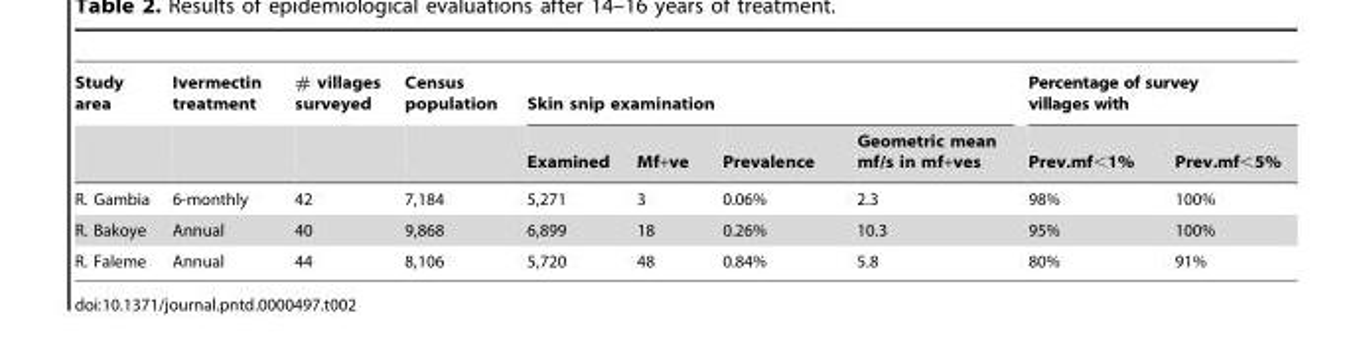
<table><thead><tr><td rowspan="2">Study area</td><td rowspan="2">Ivermectin treatment</td><td rowspan="2"># villages surveyed</td><td rowspan="2">Census population</td><td colspan="4">Skin snip examination</td><td colspan="2">Percentage of survey villages with</td></tr><tr><td>Examined</td><td>Mf+ve</td><td>Prevalence</td><td>Geometric mean mf/s in mf+ves</td><td>Prev.mf&lt;1%</td><td>Prev.mf&lt;5%</td></tr></thead><tbody><tr><td>R. Gambia</td><td>6-monthly</td><td>42</td><td>7,184</td><td>5,271</td><td>3</td><td>0.06%</td><td>2.3</td><td>98%</td><td>100%</td></tr><tr><td>R. Bakoye</td><td>Annual</td><td>40</td><td>9,868</td><td>6,899</td><td>18</td><td>0.26%</td><td>10.3</td><td>95%</td><td>100%</td></tr><tr><td>R. Faleme</td><td>Annual</td><td>44</td><td>8,106</td><td>5,720</td><td>48</td><td>0.84%</td><td>5.8</td><td>80%</td><td>91%</td></tr></tbody></table>